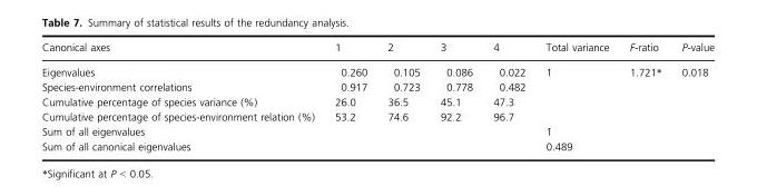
<table><thead><tr><td>Canonical axes</td><td>1</td><td>2</td><td>3</td><td>4</td><td>Total variance</td><td>F-ratio</td><td>P-value</td></tr></thead><tbody><tr><td>Eigenvalues</td><td>0.260</td><td>0.105</td><td>0.086</td><td>0.022</td><td>1</td><td>1.721*</td><td>0.018</td></tr><tr><td>Species-environment correlations</td><td>0.917</td><td>0.723</td><td>0.778</td><td>0.482</td><td></td><td></td><td></td></tr><tr><td>Cumulative percentage of species variance (%)</td><td>26.0</td><td>36.5</td><td>45.1</td><td>47.3</td><td></td><td></td><td></td></tr><tr><td>Cumulative percentage of species-environment relation (%)</td><td>53.2</td><td>74.6</td><td>92.2</td><td>96.7</td><td></td><td></td><td></td></tr><tr><td>Sum of all eigenvalues</td><td></td><td></td><td></td><td></td><td>1</td><td></td><td></td></tr><tr><td>Sum of all canonical eigenvalues</td><td></td><td></td><td></td><td></td><td>0.489</td><td></td><td></td></tr></tbody></table>